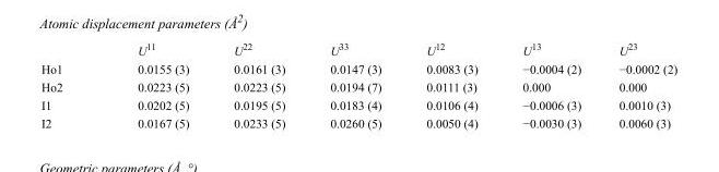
<table><thead><tr><td></td><td>U<sup>11</sup></td><td>U<sup>22</sup></td><td>U<sup>33</sup></td><td>U<sup>12</sup></td><td>U<sup>13</sup></td><td>U<sup>23</sup></td></tr></thead><tbody><tr><td>Ho1</td><td>0.0155 (3)</td><td>0.0161 (3)</td><td>0.0147 (3)</td><td>0.0083 (3)</td><td>−0.0004 (2)</td><td>−0.0002 (2)</td></tr><tr><td>Ho2</td><td>0.0223 (5)</td><td>0.0223 (5)</td><td>0.0194 (7)</td><td>0.0111 (3)</td><td>0.000</td><td>0.000</td></tr><tr><td>I1</td><td>0.0202 (5)</td><td>0.0195 (5)</td><td>0.0183 (4)</td><td>0.0106 (4)</td><td>−0.0006 (3)</td><td>0.0010 (3)</td></tr><tr><td>I2</td><td>0.0167 (5)</td><td>0.0233 (5)</td><td>0.0260 (5)</td><td>0.0050 (4)</td><td>−0.0030 (3)</td><td>0.0060 (3)</td></tr></tbody></table>